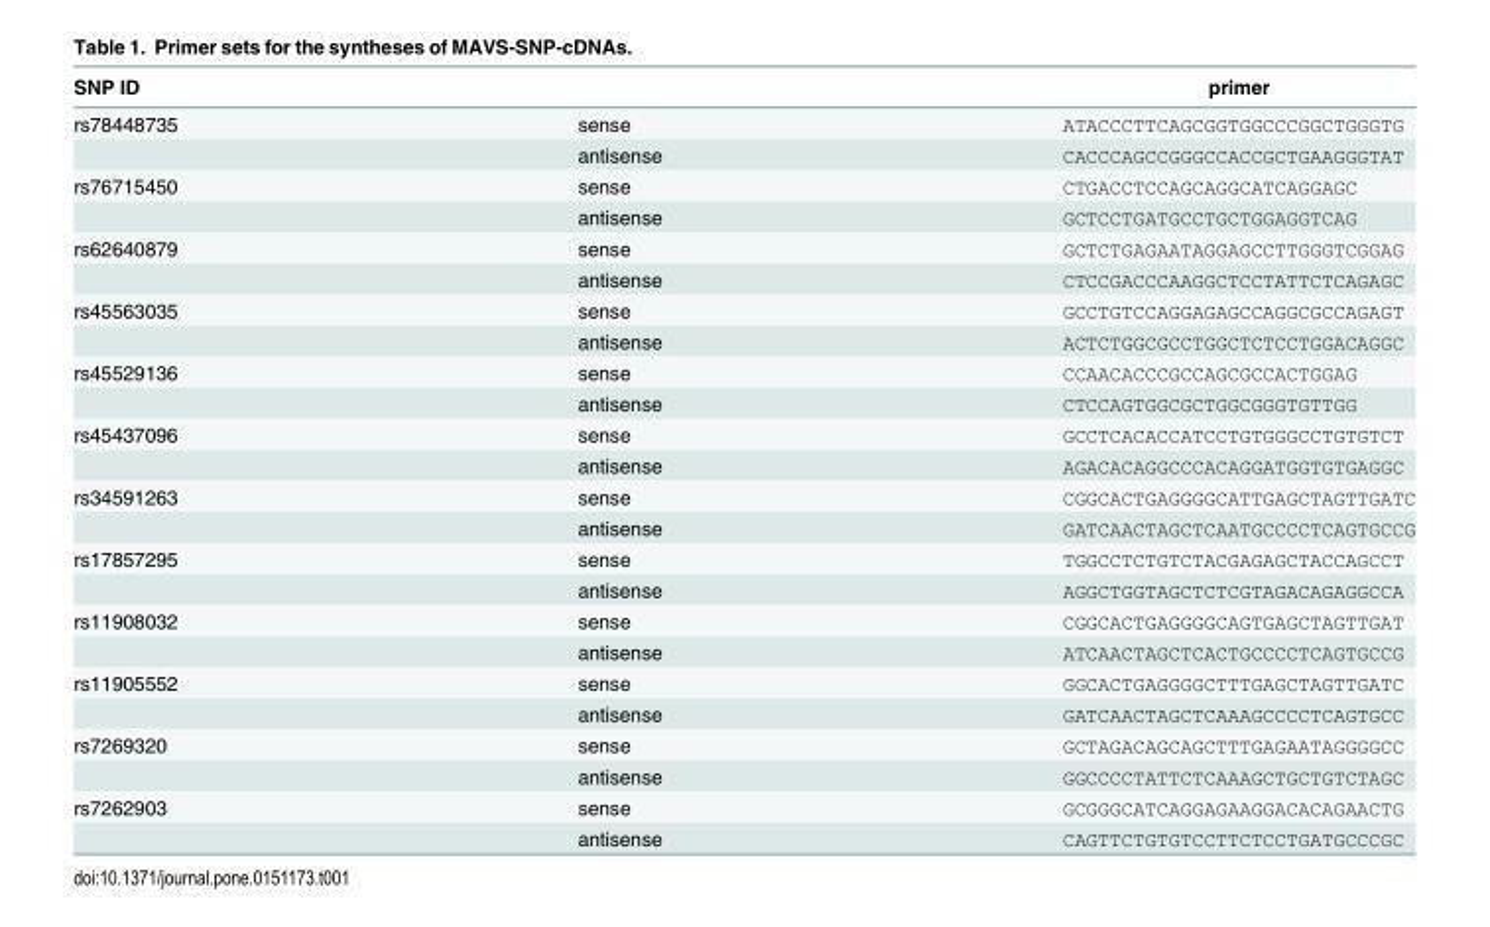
<table><thead><tr><td>SNP ID</td><td></td><td>primer</td></tr></thead><tbody><tr><td rowspan="2">rs78448735</td><td>sense</td><td>ATACCCTTCAGCGGTGGCCCGGCTGGGTG</td></tr><tr><td>antisense</td><td>CACCCAGCCGGGCCACCGCTGAAGGGTAT</td></tr><tr><td rowspan="2">rs76715450</td><td>sense</td><td>CTGACCTCCAGCAGGCATCAGGAGC</td></tr><tr><td>antisense</td><td>GCTCCTGATGCCTGCTGGAGGTCAG</td></tr><tr><td rowspan="2">rs62640879</td><td>sense</td><td>GCTCTGAGAATAGGAGCCTTGGGTCGGAG</td></tr><tr><td>antisense</td><td>CTCCGACCCAAGGCTCCTATTCTCAGAGC</td></tr><tr><td rowspan="2">rs45563035</td><td>sense</td><td>GCCTGTCCAGGAGAGCCAGGCGCCAGAGT</td></tr><tr><td>antisense</td><td>ACTCTGGCGCCTGGCTCTCCTGGACAGGC</td></tr><tr><td rowspan="2">rs45529136</td><td>sense</td><td>CCAACACCCGCCAGCGCCACTGGAG</td></tr><tr><td>antisense</td><td>CTCCAGTGGCGCTGGCGGGTGTTGG</td></tr><tr><td rowspan="2">rs45437096</td><td>sense</td><td>GCCTCACACCATCCTGTGGGCCTGTGTCT</td></tr><tr><td>antisense</td><td>AGACACAGGCCCACAGGATGGTGTGAGGC</td></tr><tr><td rowspan="2">rs34591263</td><td>sense</td><td>CGGCACTGAGGGGCATTGAGCTAGTTGATC</td></tr><tr><td>antisense</td><td>GATCAACTAGCTCAATGCCCCTCAGTGCCG</td></tr><tr><td rowspan="2">rs17857295</td><td>sense</td><td>TGGCCTCTGTCTACGAGAGCTACCAGCCT</td></tr><tr><td>antisense</td><td>AGGCTGGTAGCTCTCGTAGACAGAGGCCA</td></tr><tr><td rowspan="2">rs11908032</td><td>sense</td><td>CGGCACTGAGGGGCAGTGAGCTAGTTGAT</td></tr><tr><td>antisense</td><td>ATCAACTAGCTCACTGCCCCTCAGTGCCG</td></tr><tr><td rowspan="2">rs11905552</td><td>sense</td><td>GGCACTGAGGGGCTTTGAGCTAGTTGATC</td></tr><tr><td>antisense</td><td>GATCAACTAGCTCAAAGCCCCTCAGTGCC</td></tr><tr><td rowspan="2">rs7269320</td><td>sense</td><td>GCTAGACAGCAGCTTTGAGAATAGGGGCC</td></tr><tr><td>antisense</td><td>GGCCCCTATTCTCAAAGCTGCTGTCTAGC</td></tr><tr><td rowspan="2">rs7262903</td><td>sense</td><td>GCGGGCATCAGGAGAAGGACACAGAACTG</td></tr><tr><td>antisense</td><td>CAGTTCTGTGTCCTTCTCCTGATGCCCGC</td></tr></tbody></table>